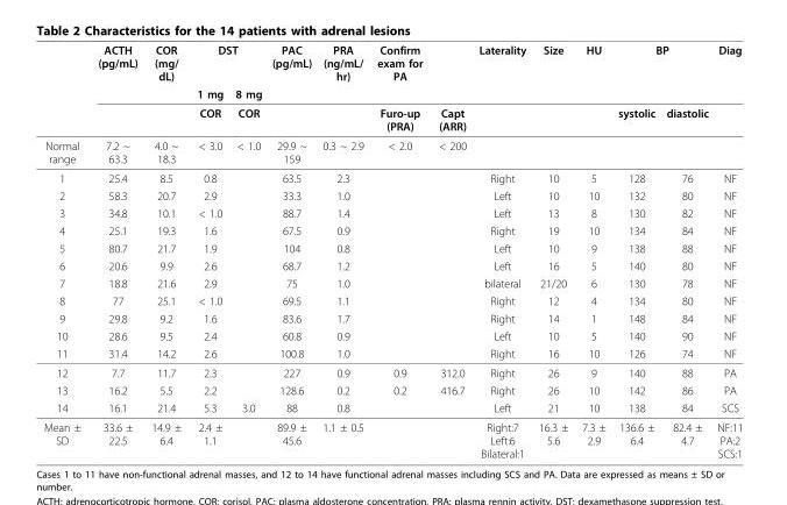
<table><thead><tr><td rowspan="3"></td><td rowspan="3">ACTH (pg/mL)</td><td rowspan="3">COR (mg/ dL)</td><td colspan="2">DST</td><td rowspan="3">PAC (pg/mL)</td><td rowspan="3">PRA (ng/mL/ hr)</td><td rowspan="3">Confirm exam for PA Furo-up (PRA)</td><td rowspan="3">Capt (ARR)</td><td rowspan="3">Laterality</td><td rowspan="3">Size</td><td rowspan="3">HU</td><td colspan="2">BP</td><td rowspan="3">Diag</td></tr><tr><td rowspan="2">1 mg COR</td><td rowspan="2">8 mg COR</td><td rowspan="2">systolic</td><td rowspan="2">diastolic</td></tr><tr></tr></thead><tbody><tr><td>Normal range</td><td>7.2 ~ 63.3</td><td>4.0 ~ 18.3</td><td>&lt; 3.0</td><td>&lt; 1.0</td><td>29.9 ~ 159</td><td>0.3 ~ 2.9</td><td>&lt; 2.0</td><td>&lt; 200</td><td></td><td></td><td></td><td></td><td></td><td></td></tr><tr><td>1</td><td>25.4</td><td>8.5</td><td>0.8</td><td></td><td>63.5</td><td>2.3</td><td></td><td></td><td>Right</td><td>10</td><td>5</td><td>128</td><td>76</td><td>NF</td></tr><tr><td>2</td><td>58.3</td><td>20.7</td><td>2.9</td><td></td><td>33.3</td><td>1.0</td><td></td><td></td><td>Left</td><td>10</td><td>10</td><td>132</td><td>80</td><td>NF</td></tr><tr><td>3</td><td>34.8</td><td>10.1</td><td>&lt; 1.0</td><td></td><td>88.7</td><td>1.4</td><td></td><td></td><td>Left</td><td>13</td><td>8</td><td>130</td><td>82</td><td>NF</td></tr><tr><td>4</td><td>25.1</td><td>19.3</td><td>1.6</td><td></td><td>67.5</td><td>0.9</td><td></td><td></td><td>Right</td><td>19</td><td>10</td><td>134</td><td>84</td><td>NF</td></tr><tr><td>5</td><td>80.7</td><td>21.7</td><td>1.9</td><td></td><td>104</td><td>0.8</td><td></td><td></td><td>Left</td><td>10</td><td>9</td><td>138</td><td>88</td><td>NF</td></tr><tr><td>6</td><td>20.6</td><td>9.9</td><td>2.6</td><td></td><td>68.7</td><td>1.2</td><td></td><td></td><td>Left</td><td>16</td><td>5</td><td>140</td><td>80</td><td>NF</td></tr><tr><td>7</td><td>18.8</td><td>21.6</td><td>2.9</td><td></td><td>75</td><td>1.0</td><td></td><td></td><td>bilateral</td><td>21/20</td><td>6</td><td>130</td><td>78</td><td>NF</td></tr><tr><td>8</td><td>77</td><td>25.1</td><td>&lt; 1.0</td><td></td><td>69.5</td><td>1.1</td><td></td><td></td><td>Right</td><td>12</td><td>4</td><td>134</td><td>80</td><td>NF</td></tr><tr><td>9</td><td>29.8</td><td>9.2</td><td>1.6</td><td></td><td>83.6</td><td>1.7</td><td></td><td></td><td>Right</td><td>14</td><td>1</td><td>148</td><td>84</td><td>NF</td></tr><tr><td>10</td><td>28.6</td><td>9.5</td><td>2.4</td><td></td><td>60.8</td><td>0.9</td><td></td><td></td><td>Left</td><td>10</td><td>5</td><td>140</td><td>90</td><td>NF</td></tr><tr><td>11</td><td>31.4</td><td>14.2</td><td>2.6</td><td></td><td>100.8</td><td>1.0</td><td></td><td></td><td>Right</td><td>16</td><td>10</td><td>126</td><td>74</td><td>NF</td></tr><tr><td>12</td><td>7.7</td><td>11.7</td><td>2.3</td><td></td><td>227</td><td>0.9</td><td>0.9</td><td>312.0</td><td>Right</td><td>26</td><td>9</td><td>140</td><td>88</td><td>PA</td></tr><tr><td>13</td><td>16.2</td><td>5.5</td><td>2.2</td><td></td><td>128.6</td><td>0.2</td><td>0.2</td><td>416.7</td><td>Right</td><td>26</td><td>10</td><td>142</td><td>86</td><td>PA</td></tr><tr><td>14</td><td>16.1</td><td>21.4</td><td>5.3</td><td>3.0</td><td>88</td><td>0.8</td><td></td><td></td><td>Left</td><td>21</td><td>10</td><td>138</td><td>84</td><td>SCS</td></tr><tr><td>Mean ± SD</td><td>33.6 ± 22.5</td><td>14.9 ± 6.4</td><td>2.4 ± 1.1</td><td></td><td>89.9 ± 45.6</td><td>1.1 ± 0.5</td><td></td><td></td><td>Right:7 Left:6 Bilateral:1</td><td>16.3 ± 5.6</td><td>7.3 ± 2.9</td><td>136.6 ± 6.4</td><td>82.4 ± 4.7</td><td>NF:11 PA:2 SCS:1</td></tr></tbody></table>